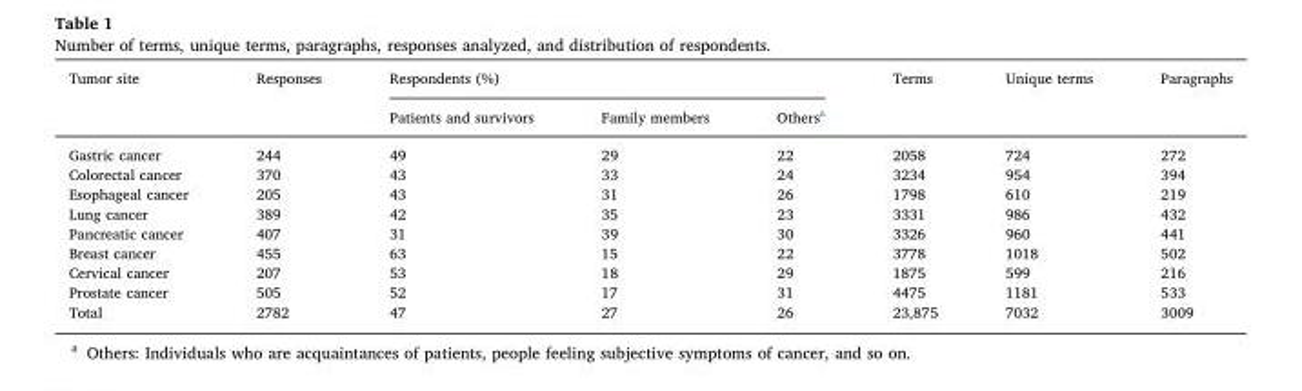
<table><thead><tr><td rowspan="2">Tumor site</td><td rowspan="2">Responses</td><td colspan="3">Respondents (%)</td><td rowspan="2">Terms</td><td rowspan="2">Unique terms</td><td rowspan="2">Paragraphs</td></tr><tr><td>Patients and survivors</td><td>Family members</td><td>Others<sup>a</sup></td></tr></thead><tbody><tr><td>Gastric cancer</td><td>244</td><td>49</td><td>29</td><td>22</td><td>2058</td><td>724</td><td>272</td></tr><tr><td>Colorectal cancer</td><td>370</td><td>43</td><td>33</td><td>24</td><td>3234</td><td>954</td><td>394</td></tr><tr><td>Esophageal cancer</td><td>205</td><td>43</td><td>31</td><td>26</td><td>1798</td><td>610</td><td>219</td></tr><tr><td>Lung cancer</td><td>389</td><td>42</td><td>35</td><td>23</td><td>3331</td><td>986</td><td>432</td></tr><tr><td>Pancreatic cancer</td><td>407</td><td>31</td><td>39</td><td>30</td><td>3326</td><td>960</td><td>441</td></tr><tr><td>Breast cancer</td><td>455</td><td>63</td><td>15</td><td>22</td><td>3778</td><td>1018</td><td>502</td></tr><tr><td>Cervical cancer</td><td>207</td><td>53</td><td>18</td><td>29</td><td>1875</td><td>599</td><td>216</td></tr><tr><td>Prostate cancer</td><td>505</td><td>52</td><td>17</td><td>31</td><td>4475</td><td>1181</td><td>533</td></tr><tr><td>Total</td><td>2782</td><td>47</td><td>27</td><td>26</td><td>23,875</td><td>7032</td><td>3009</td></tr></tbody></table>